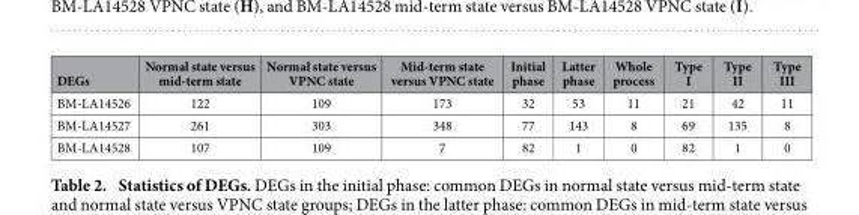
<table><thead><tr><td>DEGs</td><td>Normal state versus mid-term state</td><td>Normal state versus VPNC state</td><td>Mid-term state versus VPNC state</td><td>Initial phase</td><td>Latter phase</td><td>Whole process</td><td>Type I</td><td>Type II</td><td>Type III</td></tr></thead><tbody><tr><td>BM-LA14526</td><td>122</td><td>109</td><td>173</td><td>32</td><td>53</td><td>11</td><td>21</td><td>42</td><td>11</td></tr><tr><td>BM-LA14527</td><td>261</td><td>303</td><td>348</td><td>77</td><td>143</td><td>8</td><td>69</td><td>135</td><td>8</td></tr><tr><td>BM-LA14528</td><td>107</td><td>109</td><td>7</td><td>82</td><td>1</td><td>0</td><td>82</td><td>1</td><td>0</td></tr></tbody></table>